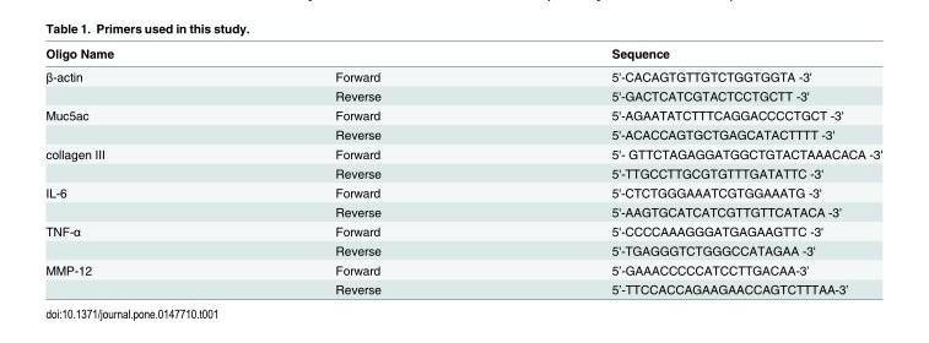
<table><thead><tr><td colspan="2">Oligo Name</td><td rowspan="2">Sequence 5&#x27;-CACAGTGTTGTCTGGTGGTA -3&#x27;</td></tr><tr><td>β-actin</td><td>Forward</td></tr></thead><tbody><tr><td></td><td>Reverse</td><td>5&#x27;-GACTCATCGTACTCCTGCTT -3&#x27;</td></tr><tr><td rowspan="2">Muc5ac</td><td>Forward</td><td>5&#x27;-AGAATATCTTTCAGGACCCCTGCT -3&#x27;</td></tr><tr><td>Reverse</td><td>5&#x27;-ACACCAGTGCTGAGCATACTTTT -3&#x27;</td></tr><tr><td rowspan="2">collagen III</td><td>Forward</td><td>5&#x27;- GTTCTAGAGGATGGCTGTACTAAACACA -3&#x27;</td></tr><tr><td>Reverse</td><td>5&#x27;-TTGCCTTGCGTGTTTGATATTC -3&#x27;</td></tr><tr><td rowspan="2">IL-6</td><td>Forward</td><td>5&#x27;-CTCTGGGAAATCGTGGAAATG -3&#x27;</td></tr><tr><td>Reverse</td><td>5&#x27;-AAGTGCATCATCGTTGTTCATACA -3&#x27;</td></tr><tr><td rowspan="2">TNF-α</td><td>Forward</td><td>5&#x27;-CCCCAAAGGGATGAGAAGTTC -3&#x27;</td></tr><tr><td>Reverse</td><td>5&#x27;-TGAGGGTCTGGGCCATAGAA -3&#x27;</td></tr><tr><td rowspan="2">MMP-12</td><td>Forward</td><td>5’-GAAACCCCCATCCTTGACAA-3’</td></tr><tr><td>Reverse</td><td>5’-TTCCACCAGAAGAACCAGTCTTTAA-3’</td></tr></tbody></table>